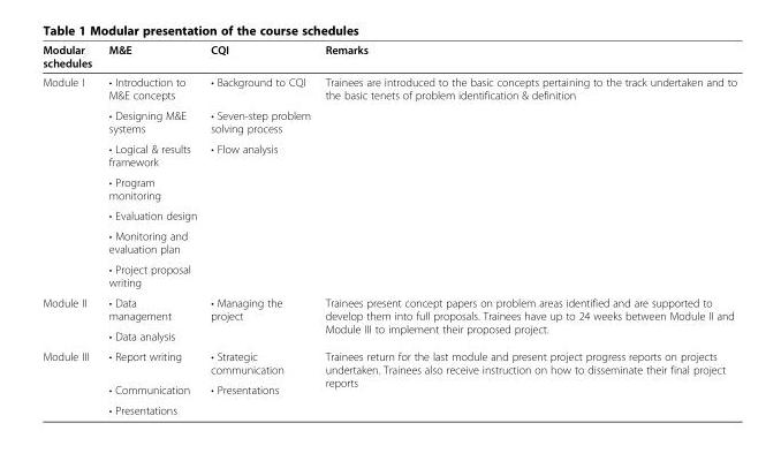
<table><thead><tr><td>Modular schedules</td><td>M&amp;E</td><td>CQI</td><td>Remarks</td></tr></thead><tbody><tr><td rowspan="7">Module I</td><td>• Introduction to M&amp;E concepts</td><td>• Background to CQI</td><td rowspan="7">Trainees are introduced to the basic concepts pertaining to the track undertaken and to the basic tenets of problem identification &amp; definition</td></tr><tr><td>• Designing M&amp;E systems</td><td>• Seven-step problem solving process</td></tr><tr><td>• Logical &amp; results framework</td><td rowspan="5">• Flow analysis</td></tr><tr><td>• Program monitoring</td></tr><tr><td>• Evaluation design</td></tr><tr><td>• Monitoring and evaluation plan</td></tr><tr><td>• Project proposal writing</td></tr><tr><td rowspan="2">Module II</td><td>• Data management</td><td rowspan="2">• Managing the project</td><td rowspan="2">Trainees present concept papers on problem areas identified and are supported to develop them into full proposals. Trainees have up to 24 weeks between Module II and Module III to implement their proposed project.</td></tr><tr><td>• Data analysis</td></tr><tr><td rowspan="3">Module III</td><td>• Report writing</td><td>• Strategic communication</td><td rowspan="2">Trainees return for the last module and present project progress reports on projects undertaken. Trainees also receive instruction on how to disseminate their final project reports</td></tr><tr><td>• Communication</td><td>• Presentations</td></tr><tr><td>• Presentations</td><td></td><td></td></tr></tbody></table>